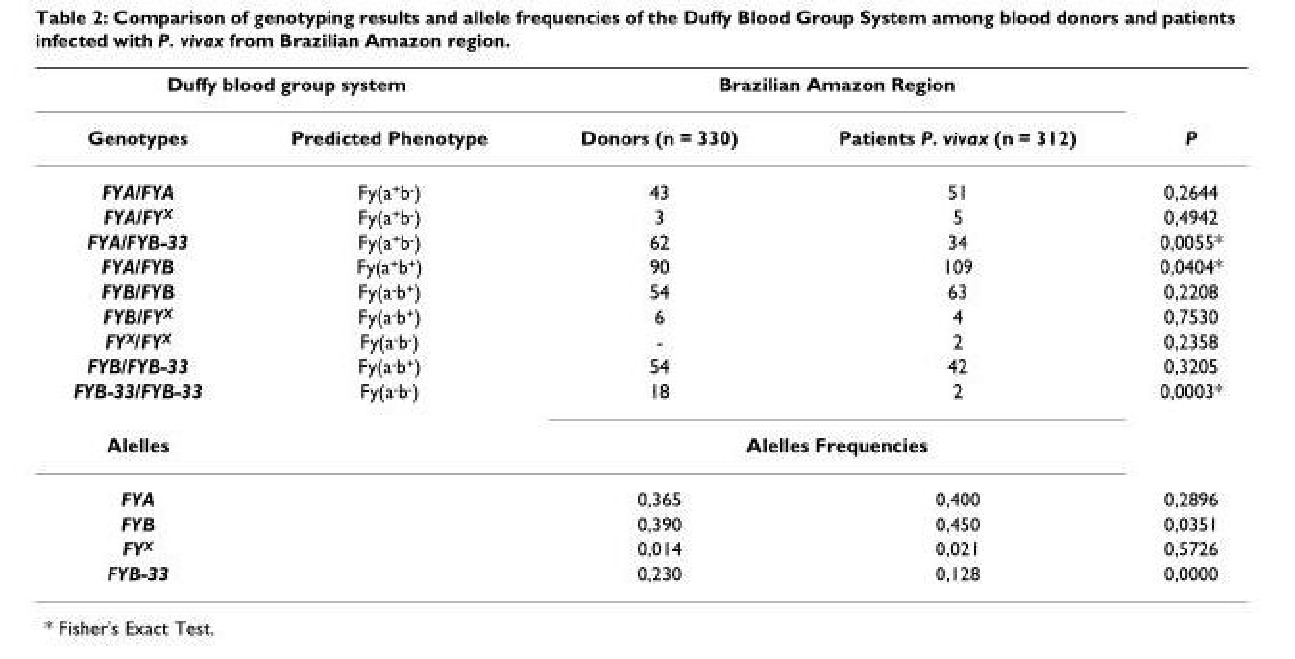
<table><thead><tr><td colspan="2">Duffy blood group system</td><td colspan="2">Brazilian Amazon Region</td><td rowspan="2">P</td></tr><tr><td>Genotypes</td><td>Predicted Phenotype</td><td>Donors (n = 330)</td><td>Patients P. vivax (n = 312)</td></tr></thead><tbody><tr><td>FYA/FYA</td><td>Fy(a<sup>+</sup>b<sup>-</sup>)</td><td>43</td><td>51</td><td>0,2644</td></tr><tr><td>FYA/FY<sup>X</sup></td><td>Fy(a<sup>+</sup>b<sup>-</sup>)</td><td>3</td><td>5</td><td>0,4942</td></tr><tr><td>FYA/FYB-33</td><td>Fy(a<sup>+</sup>b<sup>-</sup>)</td><td>62</td><td>34</td><td>0,0055*</td></tr><tr><td>FYA/FYB</td><td>Fy(a<sup>+</sup>b<sup>+</sup>)</td><td>90</td><td>109</td><td>0,0404*</td></tr><tr><td>FYB/FYB</td><td>Fy(a<sup>-</sup>b<sup>+</sup>)</td><td>54</td><td>63</td><td>0,2208</td></tr><tr><td>FYB/FY<sup>X</sup></td><td>Fy(a<sup>-</sup>b<sup>+</sup>)</td><td>6</td><td>4</td><td>0,7530</td></tr><tr><td>FY<sup>X</sup>/FY<sup>X</sup></td><td>Fy(a<sup>-</sup>b<sup>-</sup>)</td><td>-</td><td>2</td><td>0,2358</td></tr><tr><td>FYB/FYB-33</td><td>Fy(a<sup>-</sup>b<sup>+</sup>)</td><td>54</td><td>42</td><td>0,3205</td></tr><tr><td>FYB-33/FYB-33</td><td>Fy(a<sup>-</sup>b<sup>-</sup>)</td><td>18</td><td>2</td><td>0,0003*</td></tr><tr><td>Alelles</td><td></td><td colspan="2">Alelles Frequencies</td><td></td></tr><tr><td>FYA</td><td></td><td>0,365</td><td>0,400</td><td>0,2896</td></tr><tr><td>FYB</td><td></td><td>0,390</td><td>0,450</td><td>0,0351</td></tr><tr><td>FY<sup>X</sup></td><td></td><td>0,014</td><td>0,021</td><td>0,5726</td></tr><tr><td>FYB-33</td><td></td><td>0,230</td><td>0,128</td><td>0,0000</td></tr></tbody></table>